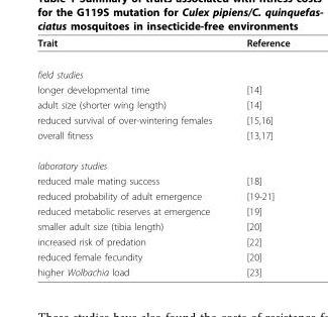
<table><tbody><tr><td>Trait</td><td>Reference</td></tr><tr><td colspan="2">field studies</td></tr><tr><td>longer developmental time</td><td>[14]</td></tr><tr><td>adult size (shorter wing length)</td><td>[14]</td></tr><tr><td>reduced survival of over-wintering females</td><td>[15,16]</td></tr><tr><td>overall fitness</td><td>[13,17]</td></tr><tr><td colspan="2">laboratory studies</td></tr><tr><td>reduced male mating success</td><td>[18]</td></tr><tr><td>reduced probability of adult emergence</td><td>[19-21]</td></tr><tr><td>reduced metabolic reserves at emergence</td><td>[19]</td></tr><tr><td>smaller adult size (tibia length)</td><td>[20]</td></tr><tr><td>increased risk of predation</td><td>[22]</td></tr><tr><td>reduced female fecundity</td><td>[20]</td></tr><tr><td>higher Wolbachia load</td><td>[23]</td></tr></tbody></table>